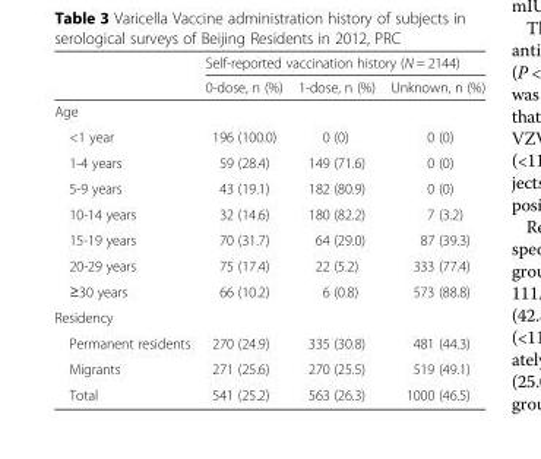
<table><thead><tr><td rowspan="2"></td><td colspan="3">Self-reported vaccination history (N = 2144)</td></tr><tr><td>0-dose, n (%)</td><td>1-dose, n (%)</td><td>Unknown, n (%)</td></tr></thead><tbody><tr><td colspan="4">Age</td></tr><tr><td>&lt;1 year</td><td>196 (100.0)</td><td>0 (0)</td><td>0 (0)</td></tr><tr><td>1-4 years</td><td>59 (28.4)</td><td>149 (71.6)</td><td>0 (0)</td></tr><tr><td>5-9 years</td><td>43 (19.1)</td><td>182 (80.9)</td><td>0 (0)</td></tr><tr><td>10-14 years</td><td>32 (14.6)</td><td>180 (82.2)</td><td>7 (3.2)</td></tr><tr><td>15-19 years</td><td>70 (31.7)</td><td>64 (29.0)</td><td>87 (39.3)</td></tr><tr><td>20-29 years</td><td>75 (17.4)</td><td>22 (5.2)</td><td>333 (77.4)</td></tr><tr><td>≥30 years</td><td>66 (10.2)</td><td>6 (0.8)</td><td>573 (88.8)</td></tr><tr><td colspan="4">Residency</td></tr><tr><td>Permanent residents</td><td>270 (24.9)</td><td>335 (30.8)</td><td>481 (44.3)</td></tr><tr><td>Migrants</td><td>271 (25.6)</td><td>270 (25.5)</td><td>519 (49.1)</td></tr><tr><td>Total</td><td>541 (25.2)</td><td>563 (26.3)</td><td>1000 (46.5)</td></tr></tbody></table>